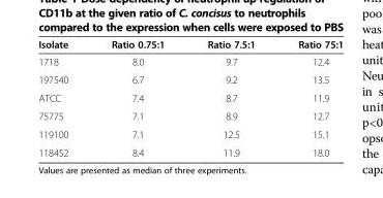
<table><thead><tr><td>Isolate</td><td>Ratio 0.75:1</td><td>Ratio 7.5:1</td><td>Ratio 75:1</td></tr></thead><tbody><tr><td>1718</td><td>8.0</td><td>9.7</td><td>12.4</td></tr><tr><td>197540</td><td>6.7</td><td>9.2</td><td>13.5</td></tr><tr><td>ATCC</td><td>7.4</td><td>8.7</td><td>11.9</td></tr><tr><td>75775</td><td>7.1</td><td>8.9</td><td>12.7</td></tr><tr><td>119100</td><td>7.1</td><td>12.5</td><td>15.1</td></tr><tr><td>118452</td><td>8.4</td><td>11.9</td><td>18.0</td></tr></tbody></table>